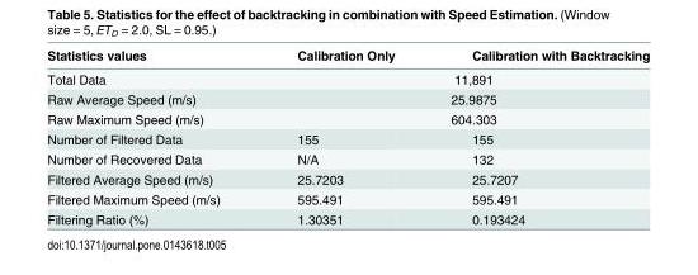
<table><thead><tr><td>Statistics values</td><td>Calibration Only</td><td>Calibration with Backtracking</td></tr></thead><tbody><tr><td>Total Data</td><td colspan="2">11,891</td></tr><tr><td>Raw Average Speed (m/s)</td><td colspan="2">25.9875</td></tr><tr><td>Raw Maximum Speed (m/s)</td><td colspan="2">604.303</td></tr><tr><td>Number of Filtered Data</td><td>155</td><td>155</td></tr><tr><td>Number of Recovered Data</td><td>N/A</td><td>132</td></tr><tr><td>Filtered Average Speed (m/s)</td><td>25.7203</td><td>25.7207</td></tr><tr><td>Filtered Maximum Speed (m/s)</td><td>595.491</td><td>595.491</td></tr><tr><td>Filtering Ratio (%)</td><td>1.30351</td><td>0.193424</td></tr></tbody></table>